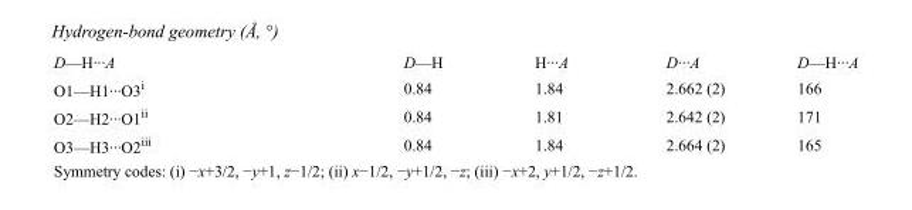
<table><tbody><tr><td>D—H···A</td><td>D—H</td><td>H···A</td><td>D···A</td><td>D—H···A</td></tr><tr><td>O1—H1···O3<sup>i</sup></td><td>0.84</td><td>1.84</td><td>2.662 (2)</td><td>166</td></tr><tr><td>O2—H2···O1<sup>ii</sup></td><td>0.84</td><td>1.81</td><td>2.642 (2)</td><td>171</td></tr><tr><td>O3—H3···O2<sup>iii</sup></td><td>0.84</td><td>1.84</td><td>2.664 (2)</td><td>165</td></tr></tbody></table>